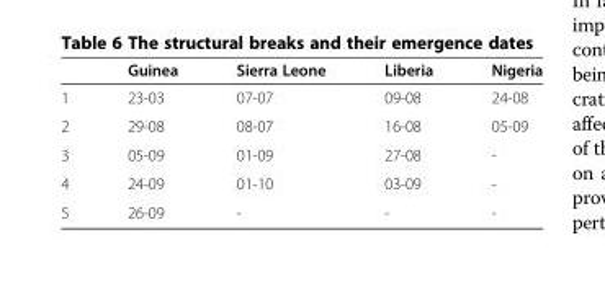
<table><thead><tr><td></td><td>Guinea</td><td>Sierra Leone</td><td>Liberia</td><td>Nigeria</td></tr></thead><tbody><tr><td>1</td><td>23-03</td><td>07-07</td><td>09-08</td><td>24-08</td></tr><tr><td>2</td><td>29-08</td><td>08-07</td><td>16-08</td><td>05-09</td></tr><tr><td>3</td><td>05-09</td><td>01-09</td><td>27-08</td><td>-</td></tr><tr><td>4</td><td>24-09</td><td>01-10</td><td>03-09</td><td>-</td></tr><tr><td>5</td><td>26-09</td><td>-</td><td>-</td><td>-</td></tr></tbody></table>